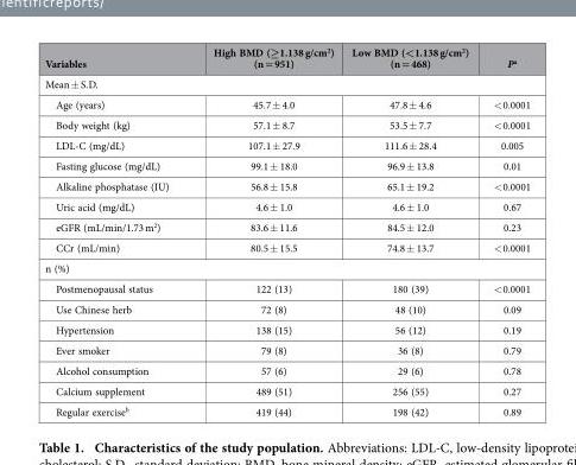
<table><thead><tr><td>Variables</td><td>High BMD (≥1.138 g/cm<sup>2</sup>) (n = 951)</td><td>Low BMD (&lt;1.138 g/cm<sup>2</sup>) (n = 468)</td><td>P<sup>a</sup></td></tr></thead><tbody><tr><td colspan="4">Mean ± S.D.</td></tr><tr><td>Age (years)</td><td>45.7 ± 4.0</td><td>47.8 ± 4.6</td><td>&lt; 0.0001</td></tr><tr><td>Body weight (kg)</td><td>57.1 ± 8.7</td><td>53.5 ± 7.7</td><td>&lt; 0.0001</td></tr><tr><td>LDL-C (mg/dL)</td><td>107.1 ± 27.9</td><td>111.6 ± 28.4</td><td>0.005</td></tr><tr><td>Fasting glucose (mg/dL)</td><td>99.1 ± 18.0</td><td>96.9 ± 13.8</td><td>0.01</td></tr><tr><td>Alkaline phosphatase (IU)</td><td>56.8 ± 15.8</td><td>65.1 ± 19.2</td><td>&lt; 0.0001</td></tr><tr><td>Uric acid (mg/dL)</td><td>4.6 ± 1.0</td><td>4.6 ± 1.0</td><td>0.67</td></tr><tr><td>eGFR (mL/min/1.73 m<sup>2</sup>)</td><td>83.6 ± 11.6</td><td>84.5 ± 12.0</td><td>0.23</td></tr><tr><td>CCr (mL/min)</td><td>80.5 ± 15.5</td><td>74.8 ± 13.7</td><td>&lt; 0.0001</td></tr><tr><td colspan="4">n (%)</td></tr><tr><td>Postmenopausal status</td><td>122 (13)</td><td>180 (39)</td><td>&lt; 0.0001</td></tr><tr><td>Use Chinese herb</td><td>72 (8)</td><td>48 (10)</td><td>0.09</td></tr><tr><td>Hypertension</td><td>138 (15)</td><td>56 (12)</td><td>0.19</td></tr><tr><td>Ever smoker</td><td>79 (8)</td><td>36 (8)</td><td>0.79</td></tr><tr><td>Alcohol consumption</td><td>57 (6)</td><td>29 (6)</td><td>0.78</td></tr><tr><td>Calcium supplement</td><td>489 (51)</td><td>256 (55)</td><td>0.27</td></tr><tr><td>Regular exercise<sup>b</sup></td><td>419 (44)</td><td>198 (42)</td><td>0.89</td></tr></tbody></table>